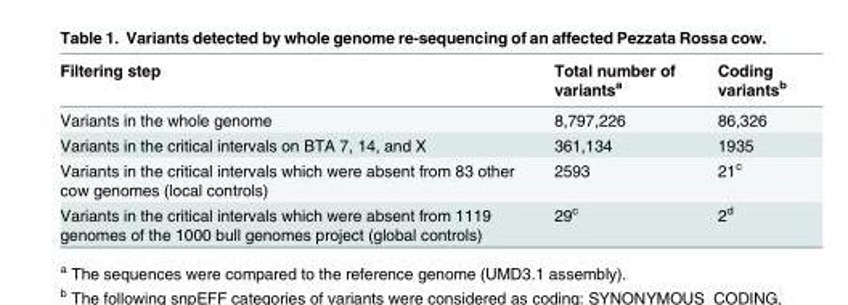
<table><thead><tr><td>Filtering step</td><td>Total number of variants<sup>a</sup></td><td>Coding variants<sup>b</sup></td></tr></thead><tbody><tr><td>Variants in the whole genome</td><td>8,797,226</td><td>86,326</td></tr><tr><td>Variants in the critical intervals on BTA 7, 14, and X</td><td>361,134</td><td>1935</td></tr><tr><td>Variants in the critical intervals which were absent from 83 other cow genomes (local controls)</td><td>2593</td><td>21<sup>c</sup></td></tr><tr><td>Variants in the critical intervals which were absent from 1119 genomes of the 1000 bull genomes project (global controls)</td><td>29<sup>c</sup></td><td>2<sup>d</sup></td></tr></tbody></table>